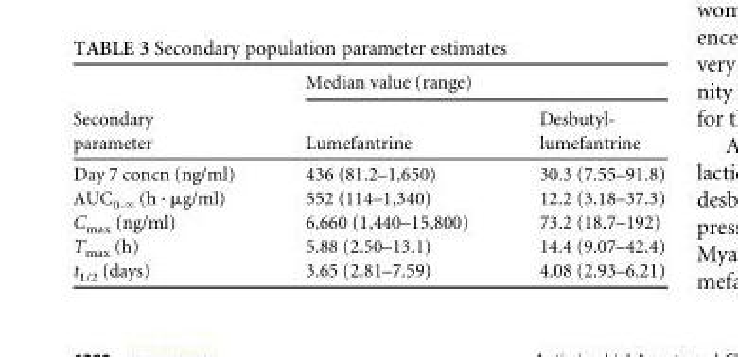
<table><thead><tr><td rowspan="2">Secondary parameter</td><td colspan="2">Median value (range)</td></tr><tr><td>Lumefantrine</td><td>Desbutyl- lumefantrine</td></tr></thead><tbody><tr><td>Day 7 concn (ng/ml)</td><td>436 (81.2–1,650)</td><td>30.3 (7.55–91.8)</td></tr><tr><td>AUC<sub>0-∞</sub> (h · μg/ml)</td><td>552 (114–1,340)</td><td>12.2 (3.18–37.3)</td></tr><tr><td>C<sub>max</sub> (ng/ml)</td><td>6,660 (1,440–15,800)</td><td>73.2 (18.7–192)</td></tr><tr><td>T<sub>max</sub> (h)</td><td>5.88 (2.50–13.1)</td><td>14.4 (9.07–42.4)</td></tr><tr><td>t<sub>1/2</sub> (days)</td><td>3.65 (2.81–7.59)</td><td>4.08 (2.93–6.21)</td></tr></tbody></table>